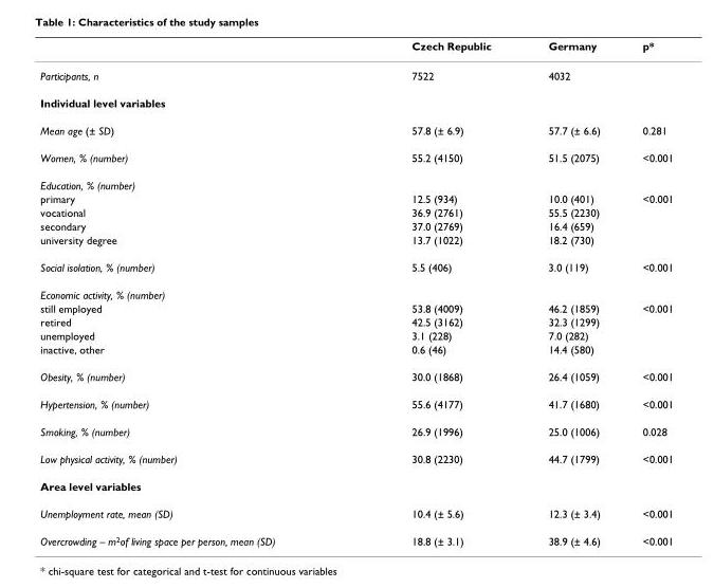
<table><thead><tr><td></td><td>Czech Republic</td><td>Germany</td><td>p*</td></tr></thead><tbody><tr><td>Participants, n</td><td>7522</td><td>4032</td><td></td></tr><tr><td colspan="4">Individual level variables</td></tr><tr><td>Mean age (± SD)</td><td>57.8 (± 6.9)</td><td>57.7 (± 6.6)</td><td>0.281</td></tr><tr><td>Women, % (number)</td><td>55.2 (4150)</td><td>51.5 (2075)</td><td>&lt;0.001</td></tr><tr><td colspan="4">Education, % (number)</td></tr><tr><td>primary</td><td>12.5 (934)</td><td>10.0 (401)</td><td>&lt;0.001</td></tr><tr><td>vocational</td><td>36.9 (2761)</td><td>55.5 (2230)</td><td></td></tr><tr><td>secondary</td><td>37.0 (2769)</td><td>16.4 (659)</td><td></td></tr><tr><td>university degree</td><td>13.7 (1022)</td><td>18.2 (730)</td><td></td></tr><tr><td>Social isolation, % (number)</td><td>5.5 (406)</td><td>3.0 (119)</td><td>&lt;0.001</td></tr><tr><td colspan="4">Economic activity, % (number)</td></tr><tr><td>still employed</td><td>53.8 (4009)</td><td>46.2 (1859)</td><td>&lt;0.001</td></tr><tr><td>retired</td><td>42.5 (3162)</td><td>32.3 (1299)</td><td></td></tr><tr><td>unemployed</td><td>3.1 (228)</td><td>7.0 (282)</td><td></td></tr><tr><td>inactive, other</td><td>0.6 (46)</td><td>14.4 (580)</td><td></td></tr><tr><td>Obesity, % (number)</td><td>30.0 (1868)</td><td>26.4 (1059)</td><td>&lt;0.001</td></tr><tr><td>Hypertension, % (number)</td><td>55.6 (4177)</td><td>41.7 (1680)</td><td>&lt;0.001</td></tr><tr><td>Smoking, % (number)</td><td>26.9 (1996)</td><td>25.0 (1006)</td><td>0.028</td></tr><tr><td>Low physical activity, % (number)</td><td>30.8 (2230)</td><td>44.7 (1799)</td><td>&lt;0.001</td></tr><tr><td colspan="4">Area level variables</td></tr><tr><td>Unemployment rate, mean (SD)</td><td>10.4 (± 5.6)</td><td>12.3 (± 3.4)</td><td>&lt;0.001</td></tr><tr><td>Overcrowding – m<sup>2</sup>of living space per person, mean (SD)</td><td>18.8 (± 3.1)</td><td>38.9 (± 4.6)</td><td>&lt;0.001</td></tr></tbody></table>